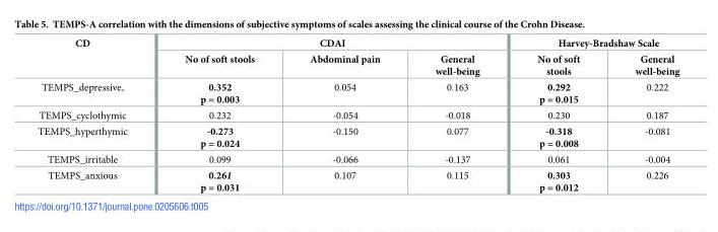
<table><thead><tr><td rowspan="2">CD</td><td colspan="3">CDAI</td><td colspan="2">Harvey-Bradshaw Scale</td></tr><tr><td>No of soft stools</td><td>Abdominal pain</td><td>General well-being</td><td>No of soft stools</td><td>General well-being</td></tr></thead><tbody><tr><td>TEMPS_depressive,</td><td>0.352 p = 0.003</td><td>0.054</td><td>0.163</td><td>0.292 p = 0.015</td><td>0.222</td></tr><tr><td>TEMPS_cyclothymic</td><td>0.232</td><td>-0.054</td><td>-0.018</td><td>0.230</td><td>0.187</td></tr><tr><td>TEMPS_hyperthymic</td><td>-0.273 p = 0.024</td><td>-0.150</td><td>0.077</td><td>-0.318 p = 0.008</td><td>-0.081</td></tr><tr><td>TEMPS_irritable</td><td>0.099</td><td>-0.066</td><td>-0.137</td><td>0.061</td><td>-0.004</td></tr><tr><td>TEMPS_anxious</td><td>0.261 p = 0.031</td><td>0.107</td><td>0.115</td><td>0.303 p = 0.012</td><td>0.226</td></tr></tbody></table>